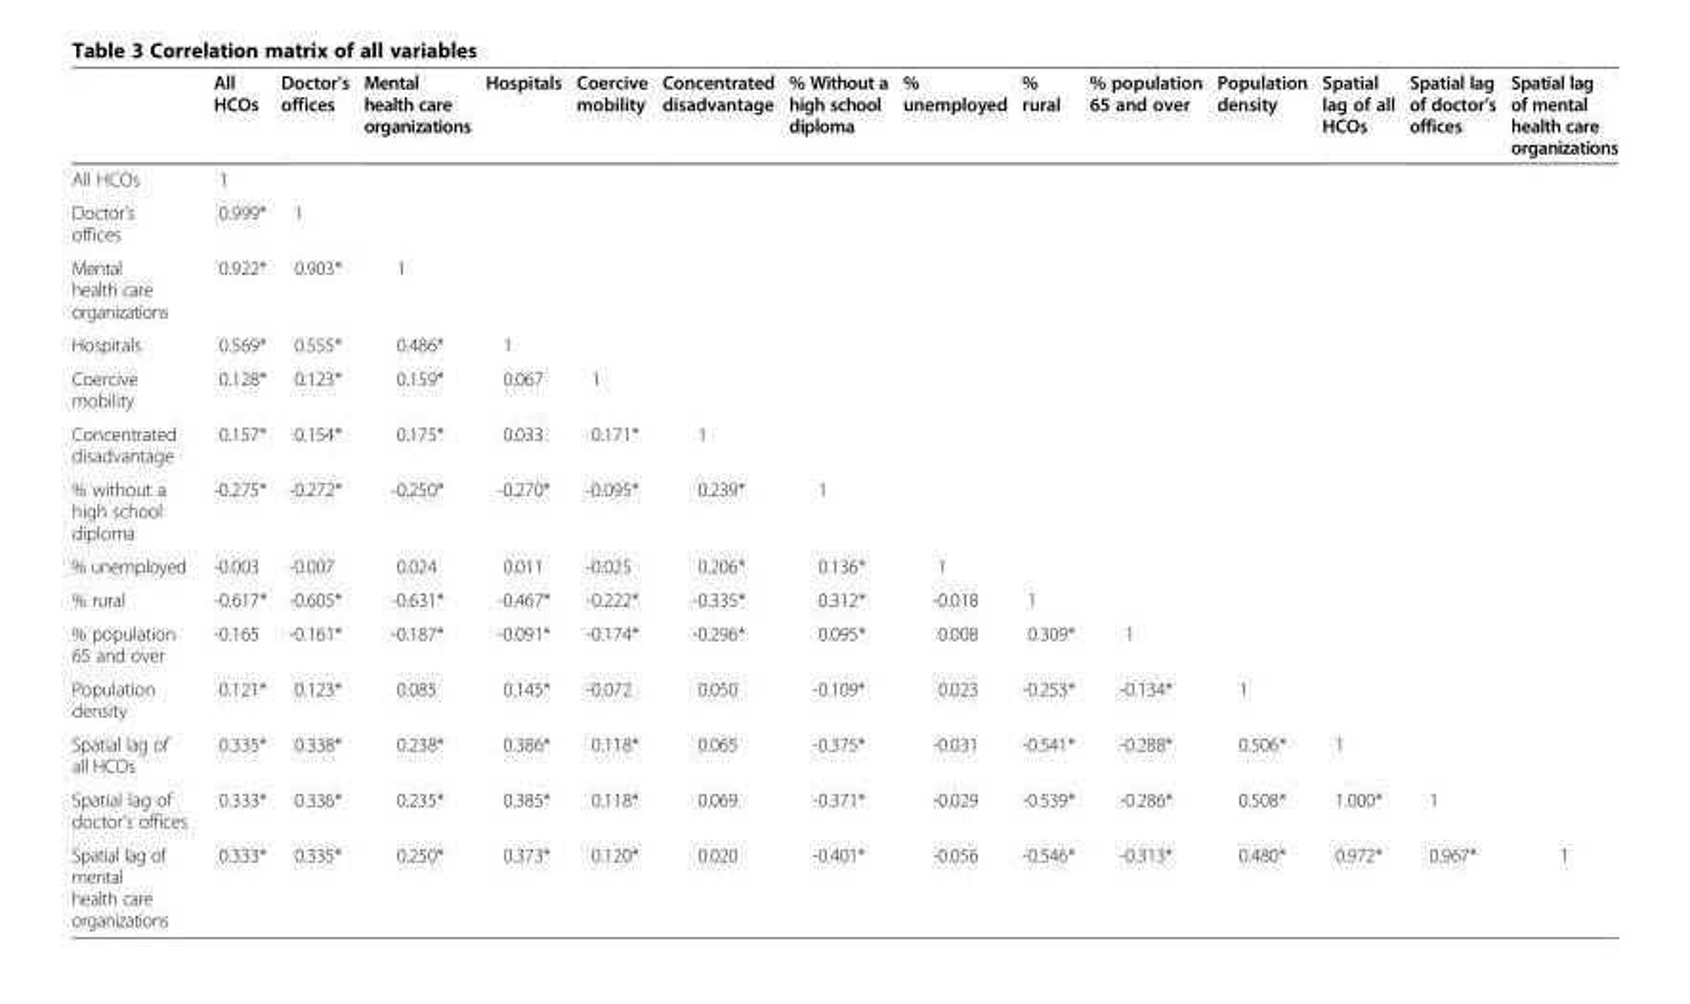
<table><thead><tr><td></td><td>All HCOs</td><td>Doctor&#x27;s offices</td><td>Mental health care organizations</td><td>Hospitals</td><td>Coercive mobility</td><td>Concentrated disadvantage</td><td>% Without a high school diploma</td><td>% unemployed</td><td>% rural</td><td>% population 65 and over</td><td>Population density</td><td>Spatial lag of all HCOs</td><td>Spatial lag of doctor’s offices</td><td>Spatial lag of mental health care organizations</td></tr></thead><tbody><tr><td>All HCOs</td><td>1</td><td></td><td></td><td></td><td></td><td></td><td></td><td></td><td></td><td></td><td></td><td></td><td></td><td></td></tr><tr><td>Doctor&#x27;s offices</td><td>0.999*</td><td>1</td><td></td><td></td><td></td><td></td><td></td><td></td><td></td><td></td><td></td><td></td><td></td><td></td></tr><tr><td>Mental health care organizations</td><td>0.922*</td><td>0.903*</td><td>1</td><td></td><td></td><td></td><td></td><td></td><td></td><td></td><td></td><td></td><td></td><td></td></tr><tr><td>Hospitals</td><td>0.569*</td><td>0.555*</td><td>0.486*</td><td>1</td><td></td><td></td><td></td><td></td><td></td><td></td><td></td><td></td><td></td><td></td></tr><tr><td>Coercive mobility</td><td>0.128*</td><td>0.123*</td><td>0.159*</td><td>0.067</td><td>1</td><td></td><td></td><td></td><td></td><td></td><td></td><td></td><td></td><td></td></tr><tr><td>Concentrated disadvantage</td><td>0.157*</td><td>0.154*</td><td>0.175*</td><td>0.033</td><td>0.171*</td><td>1</td><td></td><td></td><td></td><td></td><td></td><td></td><td></td><td></td></tr><tr><td>% without a high school diploma</td><td>-0.275*</td><td>-0.272*</td><td>-0.250*</td><td>-0.270*</td><td>-0.095*</td><td>0.239*</td><td>1</td><td></td><td></td><td></td><td></td><td></td><td></td><td></td></tr><tr><td>% unemployed</td><td>-0.003</td><td>-0.007</td><td>0.024</td><td>0.011</td><td>-0.025</td><td>0.206*</td><td>0.136*</td><td>1</td><td></td><td></td><td></td><td></td><td></td><td></td></tr><tr><td>% rural</td><td>-0.617*</td><td>-0.605*</td><td>-0.631*</td><td>-0.467*</td><td>-0.222*</td><td>-0.335*</td><td>0.312*</td><td>-0.018</td><td>1</td><td></td><td></td><td></td><td></td><td></td></tr><tr><td>% population 65 and over</td><td>-0.165</td><td>-0.161*</td><td>-0.187*</td><td>-0.091*</td><td>-0.174*</td><td>-0.296*</td><td>0.095*</td><td>0.008</td><td>0.309*</td><td>1</td><td></td><td></td><td></td><td></td></tr><tr><td>Population density</td><td>0.121*</td><td>0.123*</td><td>0.085</td><td>0.145*</td><td>-0.072</td><td>0.050</td><td>-0.109*</td><td>0.023</td><td>-0.253*</td><td>-0.134*</td><td>1</td><td></td><td></td><td></td></tr><tr><td>Spatial lag of all HCOs</td><td>0.335*</td><td>0.338*</td><td>0.238*</td><td>0.386*</td><td>0.118*</td><td>0.065</td><td>-0.375*</td><td>-0.031</td><td>-0.541*</td><td>-0.288*</td><td>0.506*</td><td>1</td><td></td><td></td></tr><tr><td>Spatial lag of doctor’s offices</td><td>0.333*</td><td>0.336*</td><td>0.235*</td><td>0.385*</td><td>0.118*</td><td>0.069</td><td>-0.371*</td><td>-0.029</td><td>-0.539*</td><td>-0.286*</td><td>0.508*</td><td>1.000*</td><td>1</td><td></td></tr><tr><td>Spatial lag of mental health care organizations</td><td>0.333*</td><td>0.335*</td><td>0.250*</td><td>0.373*</td><td>0.120*</td><td>0.020</td><td>-0.401*</td><td>-0.056</td><td>-0.546*</td><td>-0.313*</td><td>0.480*</td><td>0.972*</td><td>0.967*</td><td>1</td></tr></tbody></table>